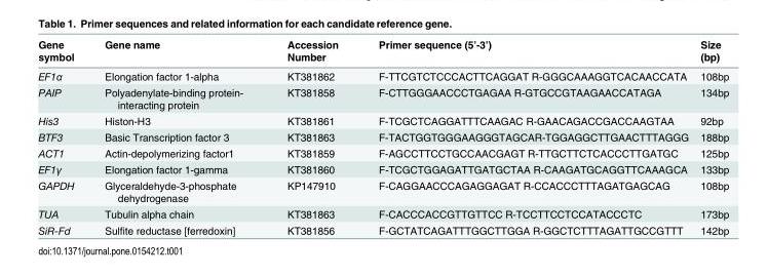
<table><thead><tr><td>Gene symbol</td><td>Gene name</td><td>Accession Number</td><td>Primer sequence (5’-3’)</td><td>Size (bp)</td></tr></thead><tbody><tr><td>EF1α</td><td>Elongation factor 1-alpha</td><td>KT381862</td><td>F-TTCGTCTCCCACTTCAGGAT R-GGGCAAAGGTCACAACCATA</td><td>108bp</td></tr><tr><td>PAIP</td><td>Polyadenylate-binding protein- interacting protein</td><td>KT381858</td><td>F-CTTGGGAACCCTGAGAA R-GTGCCGTAAGAACCATAGA</td><td>134bp</td></tr><tr><td>His3</td><td>Histon-H3</td><td>KT381861</td><td>F-TCGCTCAGGATTTCAAGAC R-GAACAGACCGACCAAGTAA</td><td>92bp</td></tr><tr><td>BTF3</td><td>Basic Transcription factor 3</td><td>KT381863</td><td>F-TACTGGTGGGAAGGGTAGCAR-TGGAGGCTTGAACTTTAGGG</td><td>188bp</td></tr><tr><td>ACT1</td><td>Actin-depolymerizing factor1</td><td>KT381859</td><td>F-AGCCTTCCTGCCAACGAGT R-TTGCTTCTCACCCTTGATGC</td><td>125bp</td></tr><tr><td>EF1γ</td><td>Elongation factor 1-gamma</td><td>KT381860</td><td>F-TCGCTGGAGATTGATGCTAA R-CAAGATGCAGGTTCAAAGCA</td><td>133bp</td></tr><tr><td>GAPDH</td><td>Glyceraldehyde-3-phosphate dehydrogenase</td><td>KP147910</td><td>F-CAGGAACCCAGAGGAGAT R-CCACCCTTTAGATGAGCAG</td><td>108bp</td></tr><tr><td>TUA</td><td>Tubulin alpha chain</td><td>KT381863</td><td>F-CACCCACCGTTGTTCC R-TCCTTCCTCCATACCCTC</td><td>173bp</td></tr><tr><td>SiR-Fd</td><td>Sulfite reductase [ferredoxin]</td><td>KT381856</td><td>F-GCTATCAGATTTGGCTTGGA R-GGCTCTTTAGATTGCCGTTT</td><td>142bp</td></tr></tbody></table>